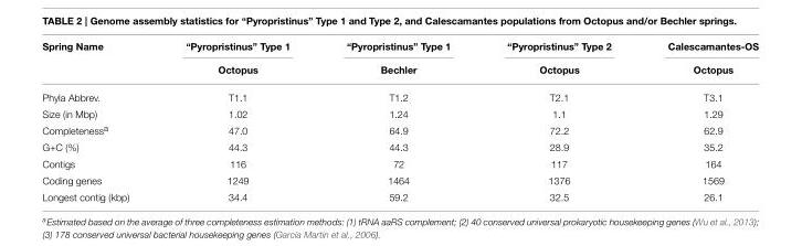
<table><thead><tr><td rowspan="2">Spring Name</td><td rowspan="2">“Pyropristinus” Type 1 Octopus</td><td rowspan="2">“Pyropristinus” Type 1 Bechler</td><td rowspan="2">“Pyropristinus” Type 2 Octopus</td><td rowspan="2">Calescamantes-OS Octopus</td></tr><tr></tr></thead><tbody><tr><td>Phyla Abbrev.</td><td>T1.1</td><td>T1.2</td><td>T2.1</td><td>T3.1</td></tr><tr><td>Size (in Mbp)</td><td>1.02</td><td>1.24</td><td>1.1</td><td>1.29</td></tr><tr><td>Completeness<sup>a</sup></td><td>47.0</td><td>64.9</td><td>72.2</td><td>62.9</td></tr><tr><td>G+C (%)</td><td>44.3</td><td>44.3</td><td>28.9</td><td>35.2</td></tr><tr><td>Contigs</td><td>116</td><td>72</td><td>117</td><td>164</td></tr><tr><td>Coding genes</td><td>1249</td><td>1464</td><td>1376</td><td>1569</td></tr><tr><td>Longest contig (kbp)</td><td>34.4</td><td>59.2</td><td>32.5</td><td>26.1</td></tr></tbody></table>